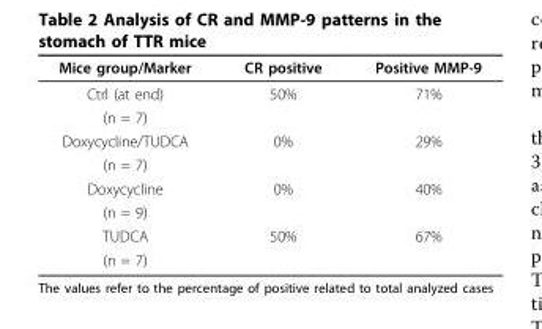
<table><thead><tr><td>Mice group/Marker</td><td>CR positive</td><td>Positive MMP-9</td></tr></thead><tbody><tr><td>Ctrl (at end)</td><td>50%</td><td>71%</td></tr><tr><td colspan="3">(n = 7)</td></tr><tr><td>Doxycycline/TUDCA</td><td>0%</td><td>29%</td></tr><tr><td colspan="3">(n = 7)</td></tr><tr><td>Doxycycline</td><td>0%</td><td>40%</td></tr><tr><td colspan="3">(n = 9)</td></tr><tr><td>TUDCA</td><td>50%</td><td>67%</td></tr><tr><td>(n = 7)</td><td></td><td></td></tr></tbody></table>